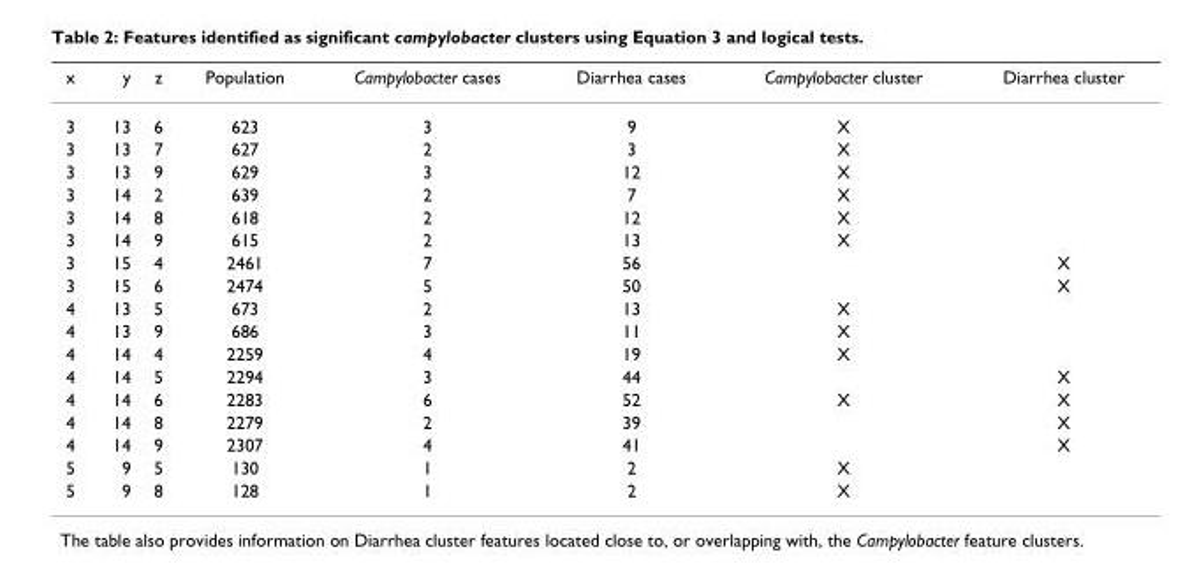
<table><thead><tr><td>x</td><td>y</td><td>z</td><td>Population</td><td>Campylobacter cases</td><td>Diarrhea cases</td><td>Campylobacter cluster</td><td>Diarrhea cluster</td></tr></thead><tbody><tr><td>3</td><td>13</td><td>6</td><td>623</td><td>3</td><td>9</td><td>X</td><td></td></tr><tr><td>3</td><td>13</td><td>7</td><td>627</td><td>2</td><td>3</td><td>X</td><td></td></tr><tr><td>3</td><td>13</td><td>9</td><td>629</td><td>3</td><td>12</td><td>X</td><td></td></tr><tr><td>3</td><td>14</td><td>2</td><td>639</td><td>2</td><td>7</td><td>X</td><td></td></tr><tr><td>3</td><td>14</td><td>8</td><td>618</td><td>2</td><td>12</td><td>X</td><td></td></tr><tr><td>3</td><td>14</td><td>9</td><td>615</td><td>2</td><td>13</td><td>X</td><td></td></tr><tr><td>3</td><td>15</td><td>4</td><td>2461</td><td>7</td><td>56</td><td></td><td>X</td></tr><tr><td>3</td><td>15</td><td>6</td><td>2474</td><td>5</td><td>50</td><td></td><td>X</td></tr><tr><td>4</td><td>13</td><td>5</td><td>673</td><td>2</td><td>13</td><td>X</td><td></td></tr><tr><td>4</td><td>13</td><td>9</td><td>686</td><td>3</td><td>11</td><td>X</td><td></td></tr><tr><td>4</td><td>14</td><td>4</td><td>2259</td><td>4</td><td>19</td><td>X</td><td></td></tr><tr><td>4</td><td>14</td><td>5</td><td>2294</td><td>3</td><td>44</td><td></td><td>X</td></tr><tr><td>4</td><td>14</td><td>6</td><td>2283</td><td>6</td><td>52</td><td>X</td><td>X</td></tr><tr><td>4</td><td>14</td><td>8</td><td>2279</td><td>2</td><td>39</td><td></td><td>X</td></tr><tr><td>4</td><td>14</td><td>9</td><td>2307</td><td>4</td><td>41</td><td></td><td>X</td></tr><tr><td>5</td><td>9</td><td>5</td><td>130</td><td>1</td><td>2</td><td>X</td><td></td></tr><tr><td>5</td><td>9</td><td>8</td><td>128</td><td>1</td><td>2</td><td>X</td><td></td></tr></tbody></table>